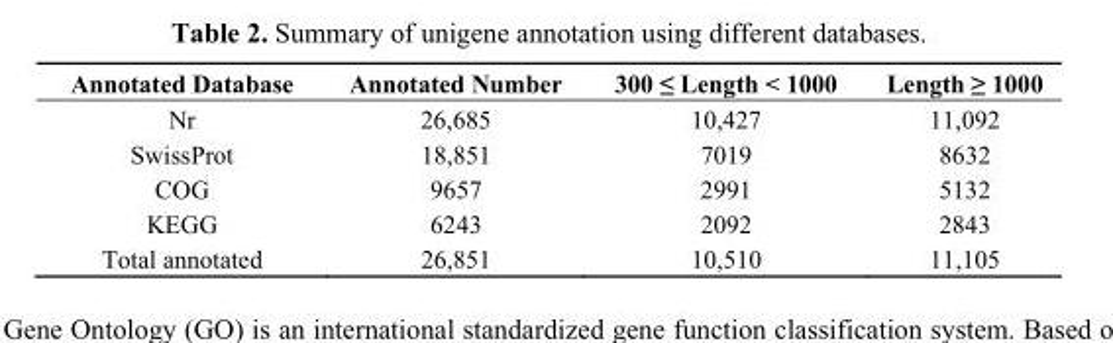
<table><thead><tr><td>Annotated Database</td><td>Annotated Number</td><td>300 ≤ Length &lt; 1000</td><td>Length ≥ 1000</td></tr></thead><tbody><tr><td>Nr</td><td>26,685</td><td>10,427</td><td>11,092</td></tr><tr><td>SwissProt</td><td>18,851</td><td>7019</td><td>8632</td></tr><tr><td>COG</td><td>9657</td><td>2991</td><td>5132</td></tr><tr><td>KEGG</td><td>6243</td><td>2092</td><td>2843</td></tr><tr><td>Total annotated</td><td>26,851</td><td>10,510</td><td>11,105</td></tr></tbody></table>